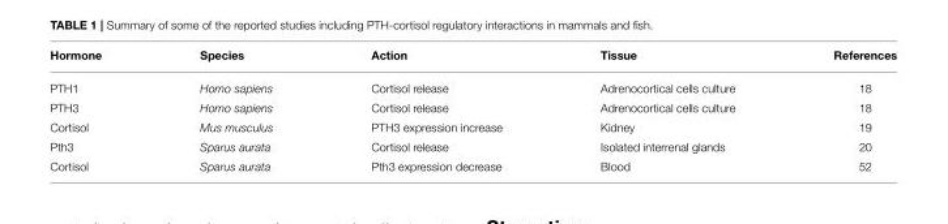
<table><thead><tr><td>Hormone</td><td>Species</td><td>Action</td><td>Tissue</td><td>References</td></tr></thead><tbody><tr><td>PTH1</td><td>Homo sapiens</td><td>Cortisol release</td><td>Adrenocortical cells culture</td><td>18</td></tr><tr><td>PTH3</td><td>Homo sapiens</td><td>Cortisol release</td><td>Adrenocortical cells culture</td><td>18</td></tr><tr><td>Cortisol</td><td>Mus musculus</td><td>PTH3 expression increase</td><td>Kidney</td><td>19</td></tr><tr><td>Pth3</td><td>Sparus aurata</td><td>Cortisol release</td><td>Isolated interrenal glands</td><td>20</td></tr><tr><td>Cortisol</td><td>Sparus aurata</td><td>Pth3 expression decrease</td><td>Blood</td><td>52</td></tr></tbody></table>